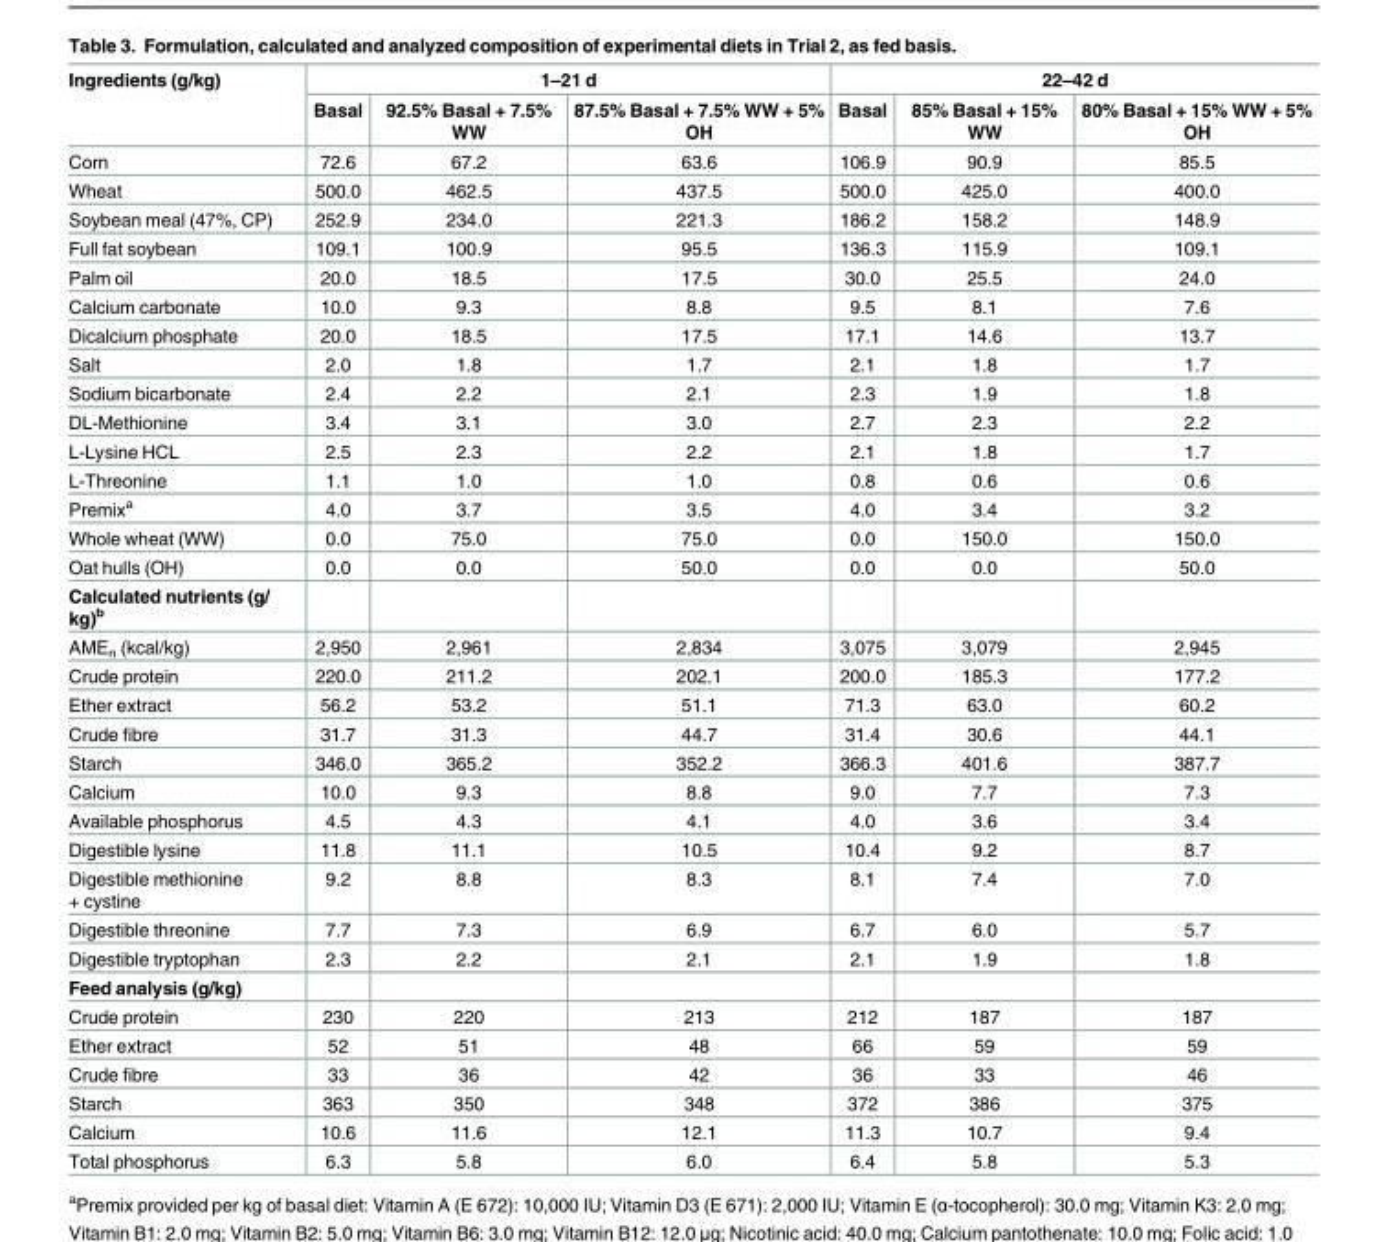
<table><thead><tr><td rowspan="2">Ingredients (g/kg)</td><td colspan="3">1–21 d</td><td colspan="3">22–42 d</td></tr><tr><td>Basal</td><td>92.5% Basal + 7.5% WW</td><td>87.5% Basal + 7.5% WW + 5% OH</td><td>Basal</td><td>85% Basal + 15% WW</td><td>80% Basal + 15% WW + 5% OH</td></tr></thead><tbody><tr><td>Corn</td><td>72.6</td><td>67.2</td><td>63.6</td><td>106.9</td><td>90.9</td><td>85.5</td></tr><tr><td>Wheat</td><td>500.0</td><td>462.5</td><td>437.5</td><td>500.0</td><td>425.0</td><td>400.0</td></tr><tr><td>Soybean meal (47%, CP)</td><td>252.9</td><td>234.0</td><td>221.3</td><td>186.2</td><td>158.2</td><td>148.9</td></tr><tr><td>Full fat soybean</td><td>109.1</td><td>100.9</td><td>95.5</td><td>136.3</td><td>115.9</td><td>109.1</td></tr><tr><td>Palm oil</td><td>20.0</td><td>18.5</td><td>17.5</td><td>30.0</td><td>25.5</td><td>24.0</td></tr><tr><td>Calcium carbonate</td><td>10.0</td><td>9.3</td><td>8.8</td><td>9.5</td><td>8.1</td><td>7.6</td></tr><tr><td>Dicalcium phosphate</td><td>20.0</td><td>18.5</td><td>17.5</td><td>17.1</td><td>14.6</td><td>13.7</td></tr><tr><td>Salt</td><td>2.0</td><td>1.8</td><td>1.7</td><td>2.1</td><td>1.8</td><td>1.7</td></tr><tr><td>Sodium bicarbonate</td><td>2.4</td><td>2.2</td><td>2.1</td><td>2.3</td><td>1.9</td><td>1.8</td></tr><tr><td>DL-Methionine</td><td>3.4</td><td>3.1</td><td>3.0</td><td>2.7</td><td>2.3</td><td>2.2</td></tr><tr><td>L-Lysine HCL</td><td>2.5</td><td>2.3</td><td>2.2</td><td>2.1</td><td>1.8</td><td>1.7</td></tr><tr><td>L-Threonine</td><td>1.1</td><td>1.0</td><td>1.0</td><td>0.8</td><td>0.6</td><td>0.6</td></tr><tr><td>Premix<sup>a</sup></td><td>4.0</td><td>3.7</td><td>3.5</td><td>4.0</td><td>3.4</td><td>3.2</td></tr><tr><td>Whole wheat (WW)</td><td>0.0</td><td>75.0</td><td>75.0</td><td>0.0</td><td>150.0</td><td>150.0</td></tr><tr><td>Oat hulls (OH)</td><td>0.0</td><td>0.0</td><td>50.0</td><td>0.0</td><td>0.0</td><td>50.0</td></tr><tr><td colspan="7">Calculated nutrients (g/ kg)<sup>b</sup></td></tr><tr><td>AME<sub>n</sub> (kcal/kg)</td><td>2,950</td><td>2,961</td><td>2,834</td><td>3,075</td><td>3,079</td><td>2,945</td></tr><tr><td>Crude protein</td><td>220.0</td><td>211.2</td><td>202.1</td><td>200.0</td><td>185.3</td><td>177.2</td></tr><tr><td>Ether extract</td><td>56.2</td><td>53.2</td><td>51.1</td><td>71.3</td><td>63.0</td><td>60.2</td></tr><tr><td>Crude fibre</td><td>31.7</td><td>31.3</td><td>44.7</td><td>31.4</td><td>30.6</td><td>44.1</td></tr><tr><td>Starch</td><td>346.0</td><td>365.2</td><td>352.2</td><td>366.3</td><td>401.6</td><td>387.7</td></tr><tr><td>Calcium</td><td>10.0</td><td>9.3</td><td>8.8</td><td>9.0</td><td>7.7</td><td>7.3</td></tr><tr><td>Available phosphorus</td><td>4.5</td><td>4.3</td><td>4.1</td><td>4.0</td><td>3.6</td><td>3.4</td></tr><tr><td>Digestible lysine</td><td>11.8</td><td>11.1</td><td>10.5</td><td>10.4</td><td>9.2</td><td>8.7</td></tr><tr><td>Digestible methionine + cystine</td><td>9.2</td><td>8.8</td><td>8.3</td><td>8.1</td><td>7.4</td><td>7.0</td></tr><tr><td>Digestible threonine</td><td>7.7</td><td>7.3</td><td>6.9</td><td>6.7</td><td>6.0</td><td>5.7</td></tr><tr><td>Digestible tryptophan</td><td>2.3</td><td>2.2</td><td>2.1</td><td>2.1</td><td>1.9</td><td>1.8</td></tr><tr><td colspan="7">Feed analysis (g/kg)</td></tr><tr><td>Crude protein</td><td>230</td><td>220</td><td>213</td><td>212</td><td>187</td><td>187</td></tr><tr><td>Ether extract</td><td>52</td><td>51</td><td>48</td><td>66</td><td>59</td><td>59</td></tr><tr><td>Crude fibre</td><td>33</td><td>36</td><td>42</td><td>36</td><td>33</td><td>46</td></tr><tr><td>Starch</td><td>363</td><td>350</td><td>348</td><td>372</td><td>386</td><td>375</td></tr><tr><td>Calcium</td><td>10.6</td><td>11.6</td><td>12.1</td><td>11.3</td><td>10.7</td><td>9.4</td></tr><tr><td>Total phosphorus</td><td>6.3</td><td>5.8</td><td>6.0</td><td>6.4</td><td>5.8</td><td>5.3</td></tr></tbody></table>